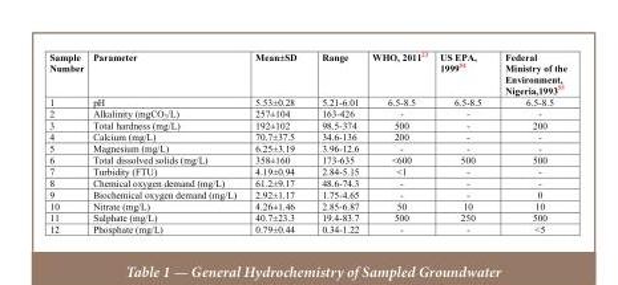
<table><thead><tr><td>Sample Number</td><td>Parameter</td><td>Mean±SD</td><td>Range</td><td>WHO, 2011<sup>23</sup></td><td>US EPA, 1999<sup>54</sup></td><td>Federal Ministry of the Environment, Nigeria,1993<sup>55</sup></td></tr></thead><tbody><tr><td>1</td><td>pH</td><td>5.53±0.28</td><td>5.21-6.01</td><td>6.5-8.5</td><td>6.5-8.5</td><td>6.5-8.5</td></tr><tr><td>2</td><td>Alkalinity (mgCO<sub>3</sub>/L)</td><td>257±104</td><td>163-426</td><td>-</td><td>-</td><td>-</td></tr><tr><td>3</td><td>Total hardness (mg/L)</td><td>192±102</td><td>98.5-374</td><td>500</td><td>-</td><td>200</td></tr><tr><td>4</td><td>Calcium (mg/L)</td><td>70.7±37.5</td><td>34.6-136</td><td>200</td><td>-</td><td>-</td></tr><tr><td>5</td><td>Magnesium (mg/L)</td><td>6.25±3.19</td><td>3.96-12.6</td><td>-</td><td>-</td><td>-</td></tr><tr><td>6</td><td>Total dissolved solids (mg/L)</td><td>358±160</td><td>173-635</td><td>&lt;600</td><td>500</td><td>500</td></tr><tr><td>7</td><td>Turbidity (FTU)</td><td>4.19±0.94</td><td>2.84-5.15</td><td>&lt;1</td><td>-</td><td>-</td></tr><tr><td>8</td><td>Chemical oxygen demand (mg/L)</td><td>61.2±9.17</td><td>48.6-74.3</td><td>-</td><td>-</td><td>-</td></tr><tr><td>9</td><td>Biochemical oxygen demand (mg/L)</td><td>2.92±1.17</td><td>1.75-4.65</td><td>-</td><td>-</td><td>0</td></tr><tr><td>10</td><td>Nitrate (mg/L)</td><td>4.26±1.46</td><td>2.85-6.87</td><td>50</td><td>10</td><td>10</td></tr><tr><td>11</td><td>Sulphate (mg/L)</td><td>40.7±23.3</td><td>19.4-83.7</td><td>500</td><td>250</td><td>500</td></tr><tr><td>12</td><td>Phosphate (mg/L)</td><td>0.79±0.44</td><td>0.34-1.22</td><td>-</td><td>-</td><td>&lt;5</td></tr></tbody></table>